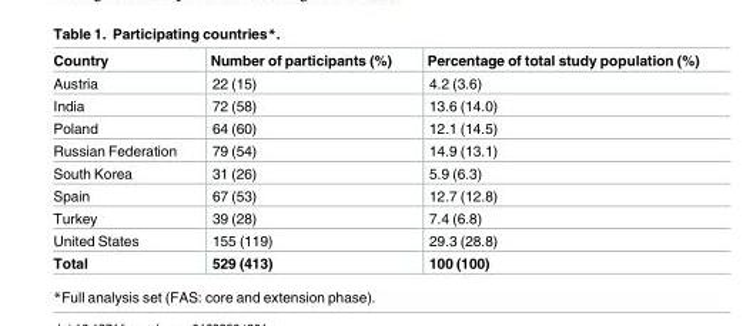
<table><thead><tr><td>Country</td><td>Number of participants (%)</td><td>Percentage of total study population (%)</td></tr></thead><tbody><tr><td>Austria</td><td>22 (15)</td><td>4.2 (3.6)</td></tr><tr><td>India</td><td>72 (58)</td><td>13.6 (14.0)</td></tr><tr><td>Poland</td><td>64 (60)</td><td>12.1 (14.5)</td></tr><tr><td>Russian Federation</td><td>79 (54)</td><td>14.9 (13.1)</td></tr><tr><td>South Korea</td><td>31 (26)</td><td>5.9 (6.3)</td></tr><tr><td>Spain</td><td>67 (53)</td><td>12.7 (12.8)</td></tr><tr><td>Turkey</td><td>39 (28)</td><td>7.4 (6.8)</td></tr><tr><td>United States</td><td>155 (119)</td><td>29.3 (28.8)</td></tr><tr><td>Total</td><td>529 (413)</td><td>100 (100)</td></tr></tbody></table>